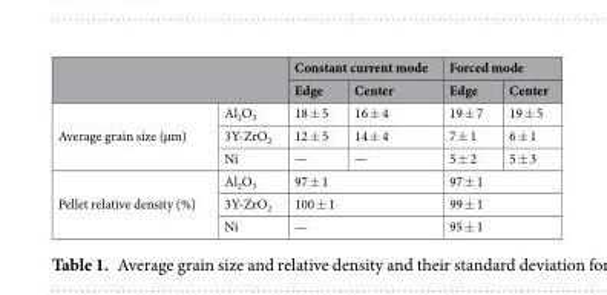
<table><thead><tr><td rowspan="2"></td><td rowspan="2"></td><td colspan="2">Constant current mode</td><td colspan="2">Forced mode</td></tr><tr><td>Edge</td><td>Center</td><td>Edge</td><td>Center</td></tr></thead><tbody><tr><td rowspan="3">Average grain size (µm)</td><td>Al<sub>2</sub>O<sub>3</sub></td><td>18 ± 5</td><td>16 ± 4</td><td>19 ± 7</td><td>19 ± 5</td></tr><tr><td>3Y-ZrO<sub>2</sub></td><td>12 ± 5</td><td>14 ± 4</td><td>7 ± 1</td><td>6 ± 1</td></tr><tr><td>Ni</td><td>—</td><td>—</td><td>5 ± 2</td><td>5 ± 3</td></tr><tr><td rowspan="3">Pellet relative density (%)</td><td>Al<sub>2</sub>O<sub>3</sub></td><td colspan="2">97 ± 1</td><td colspan="2">97 ± 1</td></tr><tr><td>3Y-ZrO<sub>2</sub></td><td colspan="2">100 ± 1</td><td colspan="2">99 ± 1</td></tr><tr><td>Ni</td><td colspan="2">—</td><td colspan="2">95 ± 1</td></tr></tbody></table>